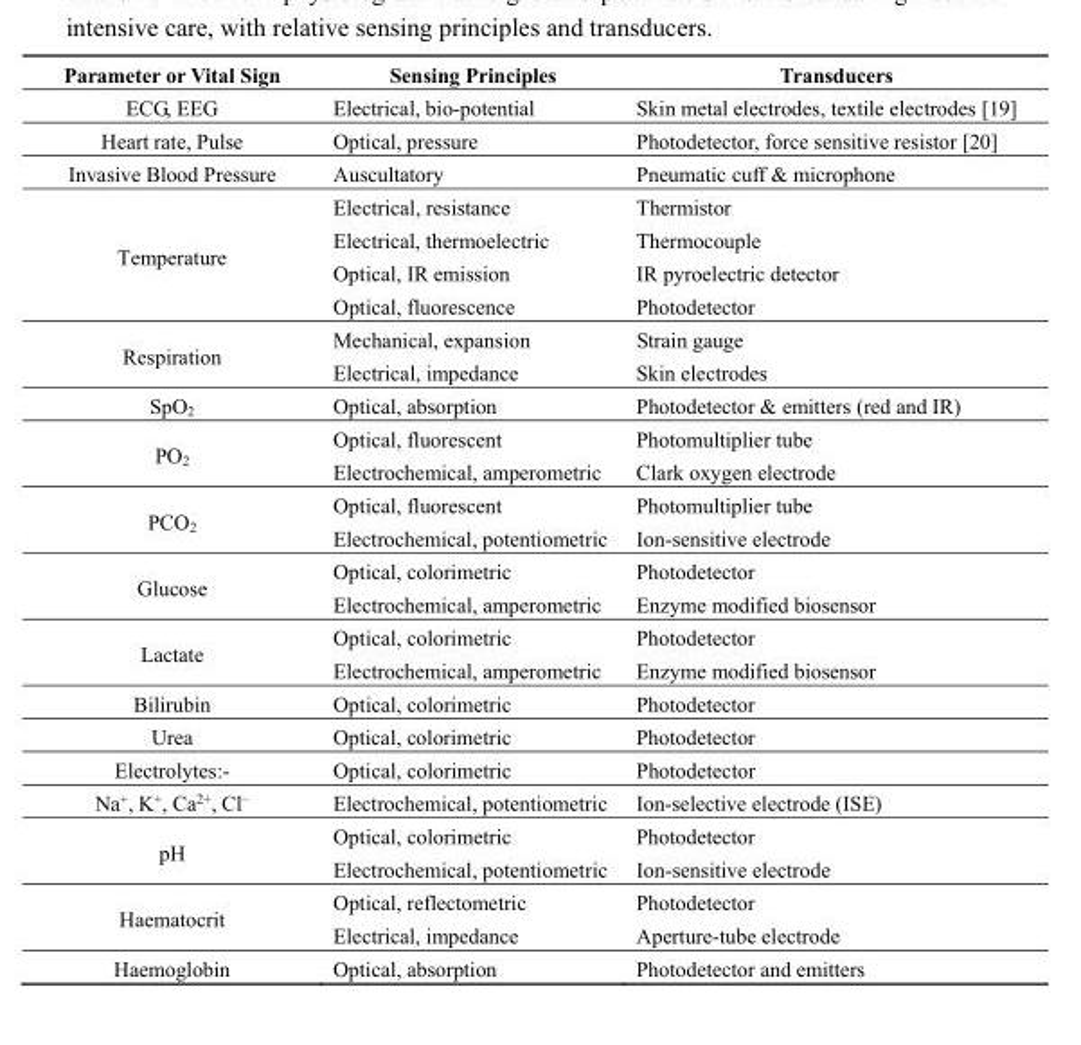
<table><thead><tr><td>Parameter or Vital Sign</td><td>Sensing Principles</td><td>Transducers</td></tr></thead><tbody><tr><td>ECG, EEG</td><td>Electrical, bio-potential</td><td>Skin metal electrodes, textile electrodes [19]</td></tr><tr><td>Heart rate, Pulse</td><td>Optical, pressure</td><td>Photodetector, force sensitive resistor [20]</td></tr><tr><td>Invasive Blood Pressure</td><td>Auscultatory</td><td>Pneumatic cuff &amp; microphone</td></tr><tr><td rowspan="4">Temperature</td><td>Electrical, resistance</td><td>Thermistor</td></tr><tr><td>Electrical, thermoelectric</td><td>Thermocouple</td></tr><tr><td>Optical, IR emission</td><td>IR pyroelectric detector</td></tr><tr><td>Optical, fluorescence</td><td>Photodetector</td></tr><tr><td rowspan="2">Respiration</td><td>Mechanical, expansion</td><td>Strain gauge</td></tr><tr><td>Electrical, impedance</td><td>Skin electrodes</td></tr><tr><td>SpO<sub>2</sub></td><td>Optical, absorption</td><td>Photodetector &amp; emitters (red and IR)</td></tr><tr><td rowspan="2">PO<sub>2</sub></td><td>Optical, fluorescent</td><td>Photomultiplier tube</td></tr><tr><td>Electrochemical, amperometric</td><td>Clark oxygen electrode</td></tr><tr><td rowspan="2">PCO<sub>2</sub></td><td>Optical, fluorescent</td><td>Photomultiplier tube</td></tr><tr><td>Electrochemical, potentiometric</td><td>Ion-sensitive electrode</td></tr><tr><td rowspan="2">Glucose</td><td>Optical, colorimetric</td><td>Photodetector</td></tr><tr><td>Electrochemical, amperometric</td><td>Enzyme modified biosensor</td></tr><tr><td rowspan="2">Lactate</td><td>Optical, colorimetric</td><td>Photodetector</td></tr><tr><td>Electrochemical, amperometric</td><td>Enzyme modified biosensor</td></tr><tr><td>Bilirubin</td><td>Optical, colorimetric</td><td>Photodetector</td></tr><tr><td>Urea</td><td>Optical, colorimetric</td><td>Photodetector</td></tr><tr><td>Electrolytes:-</td><td>Optical, colorimetric</td><td>Photodetector</td></tr><tr><td>Na<sup>+</sup>, K<sup>+</sup>, Ca<sup>2+</sup>, Cl<sup>‒</sup></td><td>Electrochemical, potentiometric</td><td>Ion-selective electrode (ISE)</td></tr><tr><td rowspan="2">pH</td><td>Optical, colorimetric</td><td>Photodetector</td></tr><tr><td>Electrochemical, potentiometric</td><td>Ion-sensitive electrode</td></tr><tr><td rowspan="2">Haematocrit</td><td>Optical, reflectometric</td><td>Photodetector</td></tr><tr><td>Electrical, impedance</td><td>Aperture-tube electrode</td></tr><tr><td>Haemoglobin</td><td>Optical, absorption</td><td>Photodetector and emitters</td></tr></tbody></table>